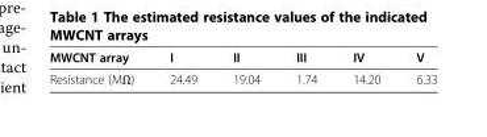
<table><thead><tr><td>MWCNT array</td><td>I</td><td>II</td><td>III</td><td>IV</td><td>V</td></tr></thead><tbody><tr><td>Resistance (MΩ)</td><td>24.49</td><td>19.04</td><td>1.74</td><td>14.20</td><td>6.33</td></tr></tbody></table>